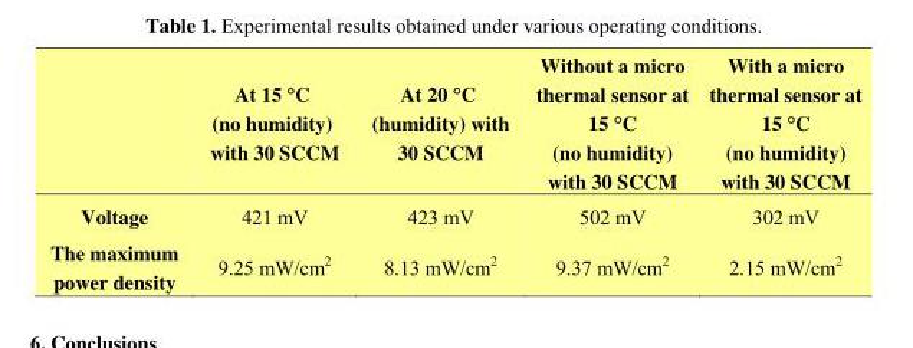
<table><thead><tr><td></td><td>At 15 °C (no humidity) with 30 SCCM</td><td>At 20 °C (humidity) with 30 SCCM</td><td>Without a micro thermal sensor at 15 °C (no humidity) with 30 SCCM</td><td>With a micro thermal sensor at 15 °C (no humidity) with 30 SCCM</td></tr></thead><tbody><tr><td>Voltage</td><td>421 mV</td><td>423 mV</td><td>502 mV</td><td>302 mV</td></tr><tr><td>The maximum power density</td><td>9.25 mW/cm<sup>2</sup></td><td>8.13 mW/cm<sup>2</sup></td><td>9.37 mW/cm<sup>2</sup></td><td>2.15 mW/cm<sup>2</sup></td></tr></tbody></table>